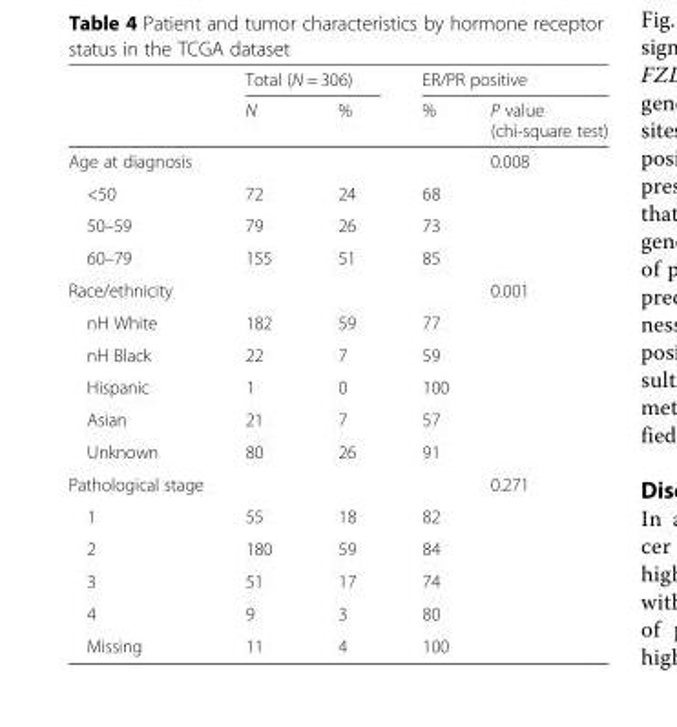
<table><thead><tr><td rowspan="2"></td><td colspan="2">Total (N = 306)</td><td colspan="2">ER/PR positive</td></tr><tr><td>N</td><td>%</td><td>%</td><td>P value (chi-square test)</td></tr></thead><tbody><tr><td>Age at diagnosis</td><td></td><td></td><td></td><td>0.008</td></tr><tr><td>&lt;50</td><td>72</td><td>24</td><td>68</td><td></td></tr><tr><td>50–59</td><td>79</td><td>26</td><td>73</td><td></td></tr><tr><td>60–79</td><td>155</td><td>51</td><td>85</td><td></td></tr><tr><td>Race/ethnicity</td><td></td><td></td><td></td><td>0.001</td></tr><tr><td>nH White</td><td>182</td><td>59</td><td>77</td><td></td></tr><tr><td>nH Black</td><td>22</td><td>7</td><td>59</td><td></td></tr><tr><td>Hispanic</td><td>1</td><td>0</td><td>100</td><td></td></tr><tr><td>Asian</td><td>21</td><td>7</td><td>57</td><td></td></tr><tr><td>Unknown</td><td>80</td><td>26</td><td>91</td><td></td></tr><tr><td>Pathological stage</td><td></td><td></td><td></td><td>0.271</td></tr><tr><td>1</td><td>55</td><td>18</td><td>82</td><td></td></tr><tr><td>2</td><td>180</td><td>59</td><td>84</td><td></td></tr><tr><td>3</td><td>51</td><td>17</td><td>74</td><td></td></tr><tr><td>4</td><td>9</td><td>3</td><td>80</td><td></td></tr><tr><td>Missing</td><td>11</td><td>4</td><td>100</td><td></td></tr></tbody></table>